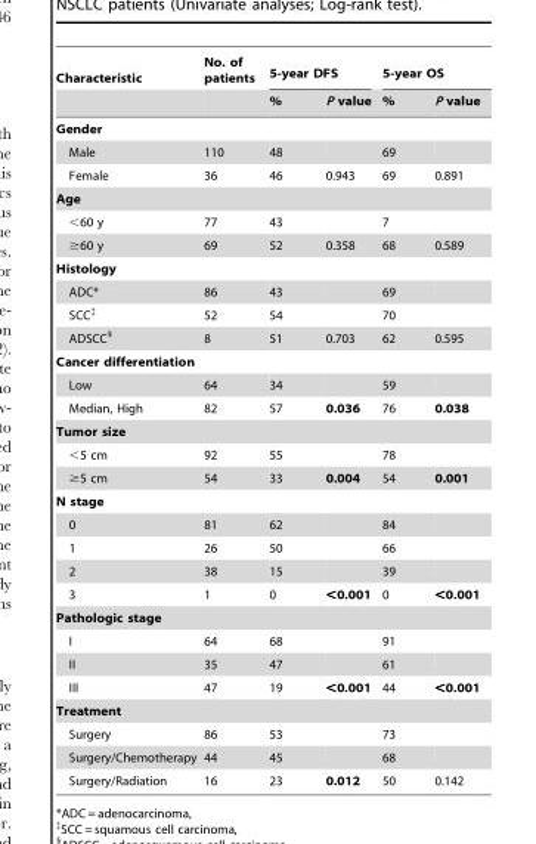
<table><thead><tr><td rowspan="2">Characteristic</td><td rowspan="2">No. of patients</td><td colspan="2">5-year DFS</td><td colspan="2">5-year OS</td></tr><tr><td>%</td><td>P value</td><td>%</td><td>P value</td></tr></thead><tbody><tr><td colspan="6">Gender</td></tr><tr><td>Male</td><td>110</td><td>48</td><td></td><td>69</td><td></td></tr><tr><td>Female</td><td>36</td><td>46</td><td>0.943</td><td>69</td><td>0.891</td></tr><tr><td colspan="6">Age</td></tr><tr><td>&lt;60 y</td><td>77</td><td>43</td><td></td><td>7</td><td></td></tr><tr><td>≥60 y</td><td>69</td><td>52</td><td>0.358</td><td>68</td><td>0.589</td></tr><tr><td colspan="6">Histology</td></tr><tr><td>ADC*</td><td>86</td><td>43</td><td></td><td>69</td><td></td></tr><tr><td>SCC‡</td><td>52</td><td>54</td><td></td><td>70</td><td></td></tr><tr><td>ADSCC§</td><td>8</td><td>51</td><td>0.703</td><td>62</td><td>0.595</td></tr><tr><td colspan="6">Cancer differentiation</td></tr><tr><td>Low</td><td>64</td><td>34</td><td></td><td>59</td><td></td></tr><tr><td>Median, High</td><td>82</td><td>57</td><td>0.036</td><td>76</td><td>0.038</td></tr><tr><td colspan="6">Tumor size</td></tr><tr><td>&lt;5 cm</td><td>92</td><td>55</td><td></td><td>78</td><td></td></tr><tr><td>≥5 cm</td><td>54</td><td>33</td><td>0.004</td><td>54</td><td>0.001</td></tr><tr><td colspan="6">N stage</td></tr><tr><td>0</td><td>81</td><td>62</td><td></td><td>84</td><td></td></tr><tr><td>1</td><td>26</td><td>50</td><td></td><td>66</td><td></td></tr><tr><td>2</td><td>38</td><td>15</td><td></td><td>39</td><td></td></tr><tr><td>3</td><td>1</td><td>0</td><td>&lt;0.001</td><td>0</td><td>&lt;0.001</td></tr><tr><td colspan="6">Pathologic stage</td></tr><tr><td>I</td><td>64</td><td>68</td><td></td><td>91</td><td></td></tr><tr><td>II</td><td>35</td><td>47</td><td></td><td>61</td><td></td></tr><tr><td>III</td><td>47</td><td>19</td><td>&lt;0.001</td><td>44</td><td>&lt;0.001</td></tr><tr><td colspan="6">Treatment</td></tr><tr><td>Surgery</td><td>86</td><td>53</td><td></td><td>73</td><td></td></tr><tr><td>Surgery/Chemotherapy</td><td>44</td><td>45</td><td></td><td>68</td><td></td></tr><tr><td>Surgery/Radiation</td><td>16</td><td>23</td><td>0.012</td><td>50</td><td>0.142</td></tr></tbody></table>